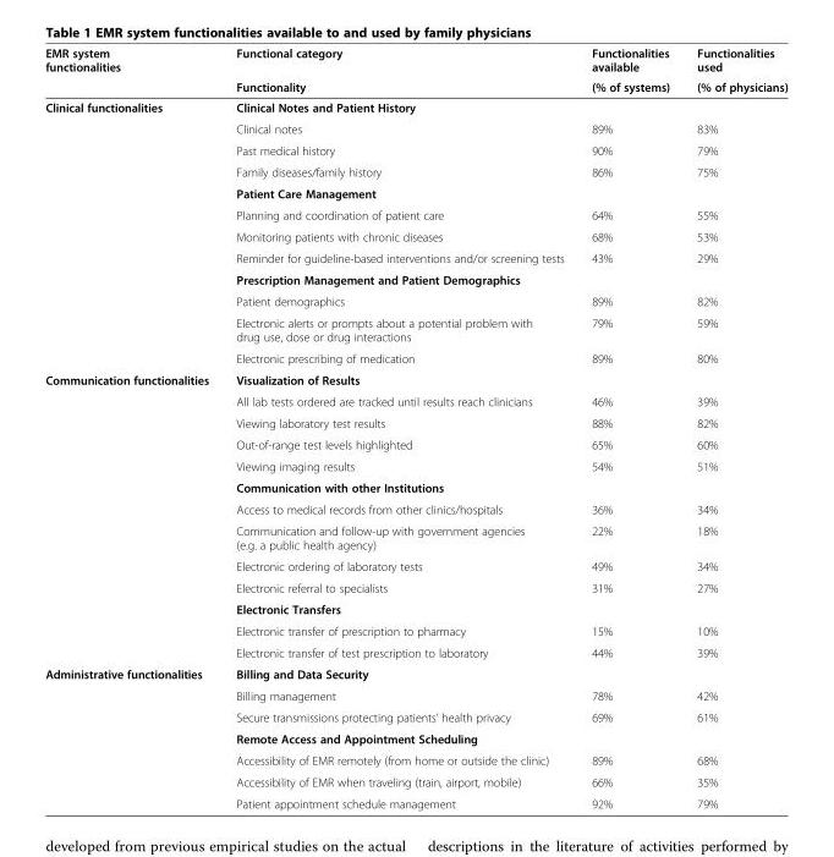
<table><thead><tr><td rowspan="2">EMR system functionalities</td><td rowspan="2">Functional category Functionality</td><td rowspan="2">Functionalities available (% of systems)</td><td rowspan="2">Functionalities used (% of physicians)</td></tr><tr></tr></thead><tbody><tr><td rowspan="12">Clinical functionalities</td><td>Clinical Notes and Patient History</td><td></td><td></td></tr><tr><td>Clinical notes</td><td>89%</td><td>83%</td></tr><tr><td>Past medical history</td><td>90%</td><td>79%</td></tr><tr><td>Family diseases/family history</td><td>86%</td><td>75%</td></tr><tr><td>Patient Care Management</td><td></td><td></td></tr><tr><td>Planning and coordination of patient care</td><td>64%</td><td>55%</td></tr><tr><td>Monitoring patients with chronic diseases</td><td>68%</td><td>53%</td></tr><tr><td>Reminder for guideline-based interventions and/or screening tests</td><td>43%</td><td>29%</td></tr><tr><td>Prescription Management and Patient Demographics</td><td></td><td></td></tr><tr><td>Patient demographics</td><td>89%</td><td>82%</td></tr><tr><td>Electronic alerts or prompts about a potential problem with drug use, dose or drug interactions</td><td>79%</td><td>59%</td></tr><tr><td>Electronic prescribing of medication</td><td>89%</td><td>80%</td></tr><tr><td rowspan="13">Communication functionalities</td><td>Visualization of Results</td><td></td><td></td></tr><tr><td>All lab tests ordered are tracked until results reach clinicians</td><td>46%</td><td>39%</td></tr><tr><td>Viewing laboratory test results</td><td>88%</td><td>82%</td></tr><tr><td>Out-of-range test levels highlighted</td><td>65%</td><td>60%</td></tr><tr><td>Viewing imaging results</td><td>54%</td><td>51%</td></tr><tr><td>Communication with other Institutions</td><td></td><td></td></tr><tr><td>Access to medical records from other clinics/hospitals</td><td>36%</td><td>34%</td></tr><tr><td>Communication and follow-up with government agencies (e.g. a public health agency)</td><td>22%</td><td>18%</td></tr><tr><td>Electronic ordering of laboratory tests</td><td>49%</td><td>34%</td></tr><tr><td>Electronic referral to specialists</td><td>31%</td><td>27%</td></tr><tr><td>Electronic Transfers</td><td></td><td></td></tr><tr><td>Electronic transfer of prescription to pharmacy</td><td>15%</td><td>10%</td></tr><tr><td>Electronic transfer of test prescription to laboratory</td><td>44%</td><td>39%</td></tr><tr><td rowspan="7">Administrative functionalities</td><td>Billing and Data Security</td><td></td><td></td></tr><tr><td>Billing management</td><td>78%</td><td>42%</td></tr><tr><td>Secure transmissions protecting patients’ health privacy</td><td>69%</td><td>61%</td></tr><tr><td>Remote Access and Appointment Scheduling</td><td></td><td></td></tr><tr><td>Accessibility of EMR remotely (from home or outside the clinic)</td><td>89%</td><td>68%</td></tr><tr><td>Accessibility of EMR when traveling (train, airport, mobile)</td><td>66%</td><td>35%</td></tr><tr><td>Patient appointment schedule management</td><td>92%</td><td>79%</td></tr></tbody></table>